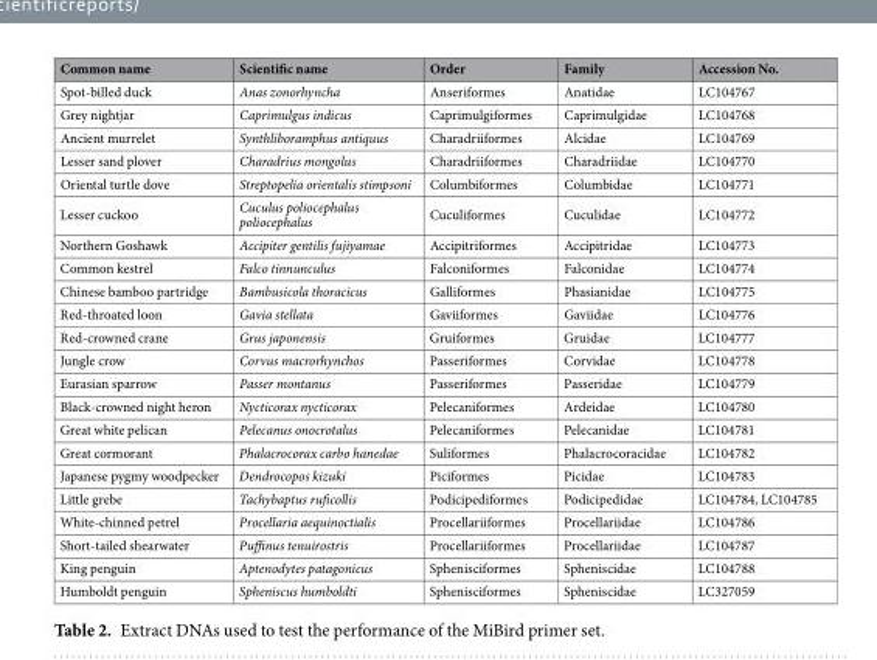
<table><thead><tr><td>Common name</td><td>Scientific name</td><td>Order</td><td>Family</td><td>Accession No.</td></tr></thead><tbody><tr><td>Spot-billed duck</td><td>Anas zonorhyncha</td><td>Anseriformes</td><td>Anatidae</td><td>LC104767</td></tr><tr><td>Grey nightjar</td><td>Caprimulgus indicus</td><td>Caprimulgiformes</td><td>Caprimulgidae</td><td>LC104768</td></tr><tr><td>Ancient murrelet</td><td>Synthliboramphus antiquus</td><td>Charadriiformes</td><td>Alcidae</td><td>LC104769</td></tr><tr><td>Lesser sand plover</td><td>Charadrius mongolus</td><td>Charadriiformes</td><td>Charadriidae</td><td>LC104770</td></tr><tr><td>Oriental turtle dove</td><td>Streptopelia orientalis stimpsoni</td><td>Columbiformes</td><td>Columbidae</td><td>LC104771</td></tr><tr><td>Lesser cuckoo</td><td>Cuculus poliocephalus poliocephalus</td><td>Cuculiformes</td><td>Cuculidae</td><td>LC104772</td></tr><tr><td>Northern Goshawk</td><td>Accipiter gentilis fujiyamae</td><td>Accipitriformes</td><td>Accipitridae</td><td>LC104773</td></tr><tr><td>Common kestrel</td><td>Falco tinnunculus</td><td>Falconiformes</td><td>Falconidae</td><td>LC104774</td></tr><tr><td>Chinese bamboo partridge</td><td>Bambusicola thoracicus</td><td>Galliformes</td><td>Phasianidae</td><td>LC104775</td></tr><tr><td>Red-throated loon</td><td>Gavia stellata</td><td>Gaviiformes</td><td>Gaviidae</td><td>LC104776</td></tr><tr><td>Red-crowned crane</td><td>Grus japonensis</td><td>Gruiformes</td><td>Gruidae</td><td>LC104777</td></tr><tr><td>Jungle crow</td><td>Corvus macrorhynchos</td><td>Passeriformes</td><td>Corvidae</td><td>LC104778</td></tr><tr><td>Eurasian sparrow</td><td>Passer montanus</td><td>Passeriformes</td><td>Passeridae</td><td>LC104779</td></tr><tr><td>Black-crowned night heron</td><td>Nycticorax nycticorax</td><td>Pelecaniformes</td><td>Ardeidae</td><td>LC104780</td></tr><tr><td>Great white pelican</td><td>Pelecanus onocrotalus</td><td>Pelecaniformes</td><td>Pelecanidae</td><td>LC104781</td></tr><tr><td>Great cormorant</td><td>Phalacrocorax carbo hanedae</td><td>Suliformes</td><td>Phalacrocoracidae</td><td>LC104782</td></tr><tr><td>Japanese pygmy woodpecker</td><td>Dendrocopos kizuki</td><td>Piciformes</td><td>Picidae</td><td>LC104783</td></tr><tr><td>Little grebe</td><td>Tachybaptus ruficollis</td><td>Podicipediformes</td><td>Podicipedidae</td><td>LC104784, LC104785</td></tr><tr><td>White-chinned petrel</td><td>Procellaria aequinoctialis</td><td>Procellariiformes</td><td>Procellariidae</td><td>LC104786</td></tr><tr><td>Short-tailed shearwater</td><td>Puffinus tenuirostris</td><td>Procellariiformes</td><td>Procellariidae</td><td>LC104787</td></tr><tr><td>King penguin</td><td>Aptenodytes patagonicus</td><td>Sphenisciformes</td><td>Spheniscidae</td><td>LC104788</td></tr><tr><td>Humboldt penguin</td><td>Spheniscus humboldti</td><td>Sphenisciformes</td><td>Spheniscidae</td><td>LC327059</td></tr></tbody></table>